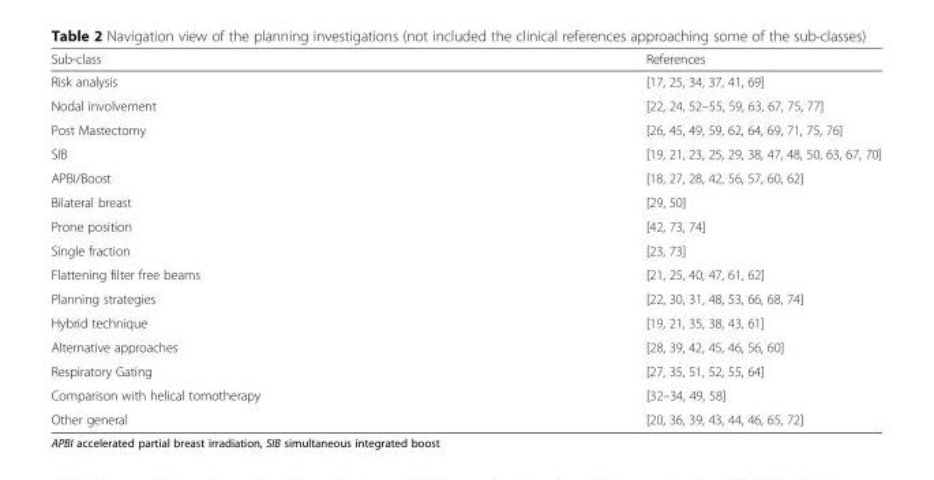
<table><thead><tr><td>Sub-class</td><td>References</td></tr></thead><tbody><tr><td>Risk analysis</td><td>[17, 25, 34, 37, 41, 69]</td></tr><tr><td>Nodal involvement</td><td>[22, 24, 52–55, 59, 63, 67, 75, 77]</td></tr><tr><td>Post Mastectomy</td><td>[26, 45, 49, 59, 62, 64, 69, 71, 75, 76]</td></tr><tr><td>SIB</td><td>[19, 21, 23, 25, 29, 38, 47, 48, 50, 63, 67, 70]</td></tr><tr><td>APBI/Boost</td><td>[18, 27, 28, 42, 56, 57, 60, 62]</td></tr><tr><td>Bilateral breast</td><td>[29, 50]</td></tr><tr><td>Prone position</td><td>[42, 73, 74]</td></tr><tr><td>Single fraction</td><td>[23, 73]</td></tr><tr><td>Flattening filter free beams</td><td>[21, 25, 40, 47, 61, 62]</td></tr><tr><td>Planning strategies</td><td>[22, 30, 31, 48, 53, 66, 68, 74]</td></tr><tr><td>Hybrid technique</td><td>[19, 21, 35, 38, 43, 61]</td></tr><tr><td>Alternative approaches</td><td>[28, 39, 42, 45, 46, 56, 60]</td></tr><tr><td>Respiratory Gating</td><td>[27, 35, 51, 52, 55, 64]</td></tr><tr><td>Comparison with helical tomotherapy</td><td>[32–34, 49, 58]</td></tr><tr><td>Other general</td><td>[20, 36, 39, 43, 44, 46, 65, 72]</td></tr></tbody></table>